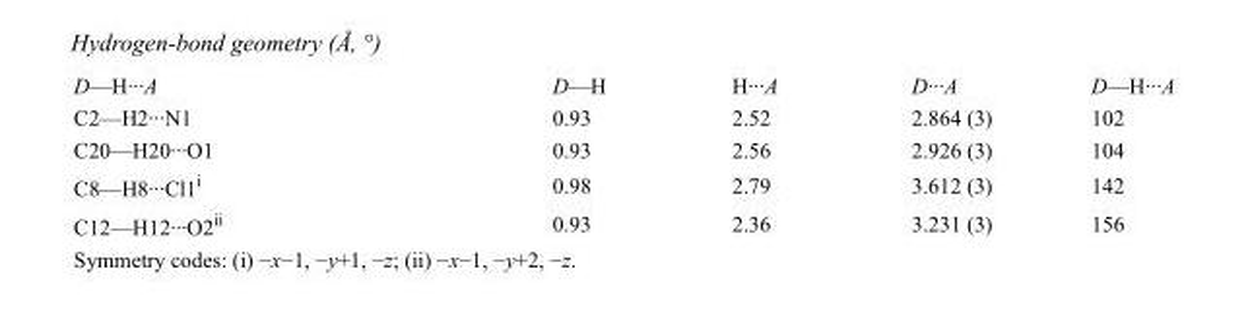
<table><tbody><tr><td>D—H···A</td><td>D—H</td><td>H···A</td><td>D···A</td><td>D—H···A</td></tr><tr><td>C2—H2···N1</td><td>0.93</td><td>2.52</td><td>2.864 (3)</td><td>102</td></tr><tr><td>C20—H20···O1</td><td>0.93</td><td>2.56</td><td>2.926 (3)</td><td>104</td></tr><tr><td>C8—H8···Cl1<sup>i</sup></td><td>0.98</td><td>2.79</td><td>3.612 (3)</td><td>142</td></tr><tr><td>C12—H12···O2<sup>ii</sup></td><td>0.93</td><td>2.36</td><td>3.231 (3)</td><td>156</td></tr></tbody></table>